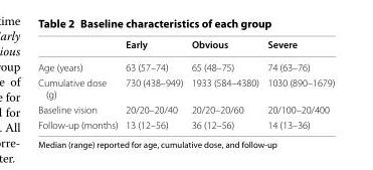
<table><thead><tr><td></td><td>Early</td><td>Obvious</td><td>Severe</td></tr></thead><tbody><tr><td>Age (years)</td><td>63 (57–74)</td><td>65 (48–75)</td><td>74 (63–76)</td></tr><tr><td>Cumulative dose (g)</td><td>730 (438–949)</td><td>1933 (584–4380)</td><td>1030 (890–1679)</td></tr><tr><td>Baseline vision</td><td>20/20–20/40</td><td>20/20–20/60</td><td>20/100–20/400</td></tr><tr><td>Follow-up (months)</td><td>13 (12–56)</td><td>36 (12–56)</td><td>14 (13–36)</td></tr></tbody></table>